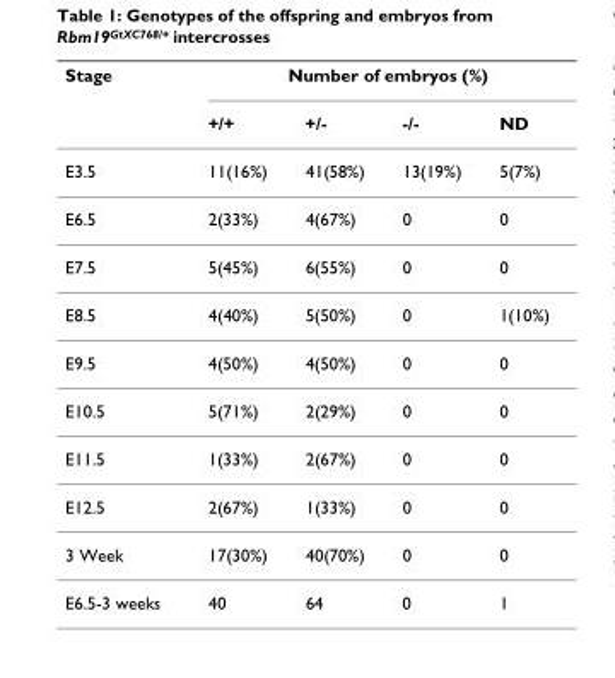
<table><thead><tr><td rowspan="2">Stage</td><td colspan="4">Number of embryos (%)</td></tr><tr><td>+/+</td><td>+/-</td><td>-/-</td><td>ND</td></tr></thead><tbody><tr><td>E3.5</td><td>11(16%)</td><td>41(58%)</td><td>13(19%)</td><td>5(7%)</td></tr><tr><td>E6.5</td><td>2(33%)</td><td>4(67%)</td><td>0</td><td>0</td></tr><tr><td>E7.5</td><td>5(45%)</td><td>6(55%)</td><td>0</td><td>0</td></tr><tr><td>E8.5</td><td>4(40%)</td><td>5(50%)</td><td>0</td><td>1(10%)</td></tr><tr><td>E9.5</td><td>4(50%)</td><td>4(50%)</td><td>0</td><td>0</td></tr><tr><td>E10.5</td><td>5(71%)</td><td>2(29%)</td><td>0</td><td>0</td></tr><tr><td>E11.5</td><td>1(33%)</td><td>2(67%)</td><td>0</td><td>0</td></tr><tr><td>E12.5</td><td>2(67%)</td><td>1(33%)</td><td>0</td><td>0</td></tr><tr><td>3 Week</td><td>17(30%)</td><td>40(70%)</td><td>0</td><td>0</td></tr><tr><td>E6.5-3 weeks</td><td>40</td><td>64</td><td>0</td><td>1</td></tr></tbody></table>